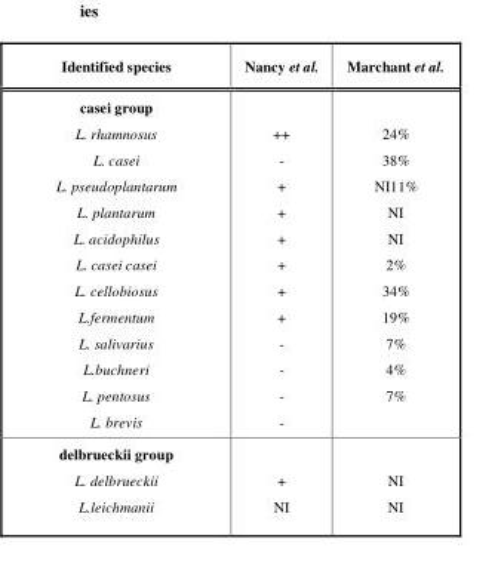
<table><thead><tr><td>Identified species</td><td>Nancy et al.</td><td>Marchant et al.</td></tr></thead><tbody><tr><td>casei group L. rhamnosus L. casei L. pseudoplantarum L. plantarum L. acidophilus L. casei casei L. cellobiosus L.fermentum L. salivarius L.buchneri L. pentosus L. brevis</td><td>++ - + + + + + + - - - -</td><td>24% 38% NI11% NI NI 2% 34% 19% 7% 4% 7%</td></tr><tr><td>delbrueckii group L. delbrueckii L.leichmanii</td><td>+ NI</td><td>NI NI</td></tr></tbody></table>